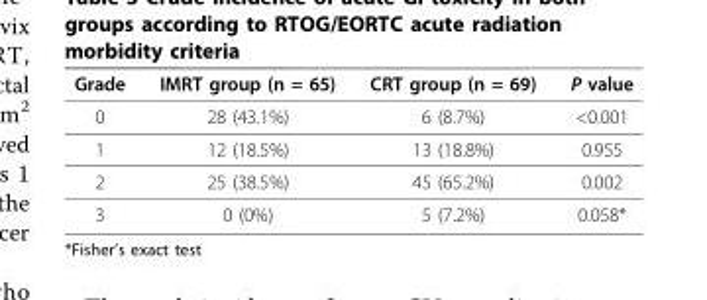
<table><thead><tr><td>Grade</td><td>IMRT group (n = 65)</td><td>CRT group (n = 69)</td><td>P value</td></tr></thead><tbody><tr><td>0</td><td>28 (43.1%)</td><td>6 (8.7%)</td><td>&lt;0.001</td></tr><tr><td>1</td><td>12 (18.5%)</td><td>13 (18.8%)</td><td>0.955</td></tr><tr><td>2</td><td>25 (38.5%)</td><td>45 (65.2%)</td><td>0.002</td></tr><tr><td>3</td><td>0 (0%)</td><td>5 (7.2%)</td><td>0.058*</td></tr></tbody></table>